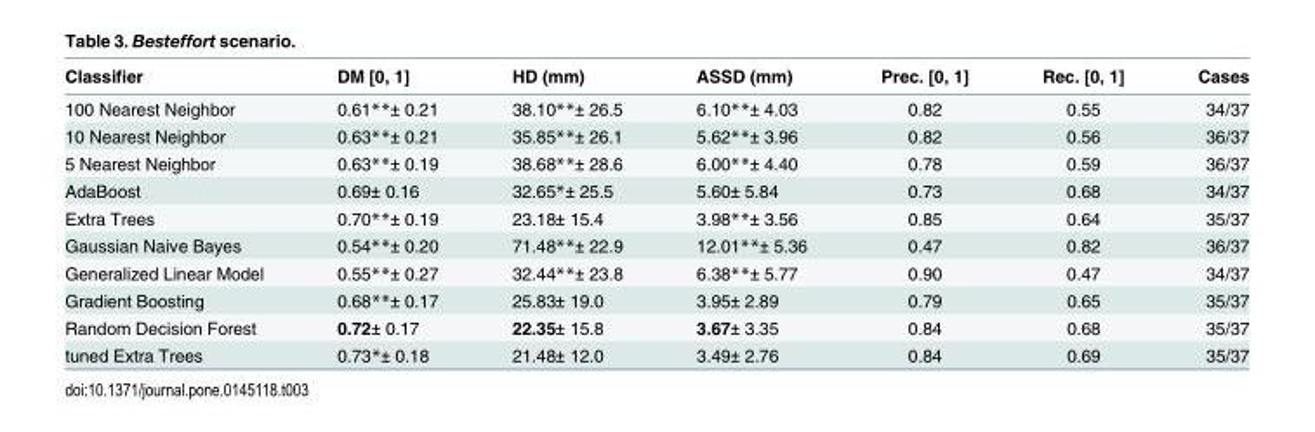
<table><thead><tr><td>Classifier</td><td>DM [0, 1]</td><td>HD (mm)</td><td>ASSD (mm)</td><td>Prec. [0, 1]</td><td>Rec. [0, 1]</td><td>Cases</td></tr></thead><tbody><tr><td>100 Nearest Neighbor</td><td>0.61**± 0.21</td><td>38.10**± 26.5</td><td>6.10**± 4.03</td><td>0.82</td><td>0.55</td><td>34/37</td></tr><tr><td>10 Nearest Neighbor</td><td>0.63**± 0.21</td><td>35.85**± 26.1</td><td>5.62**± 3.96</td><td>0.82</td><td>0.56</td><td>36/37</td></tr><tr><td>5 Nearest Neighbor</td><td>0.63**± 0.19</td><td>38.68**± 28.6</td><td>6.00**± 4.40</td><td>0.78</td><td>0.59</td><td>36/37</td></tr><tr><td>AdaBoost</td><td>0.69± 0.16</td><td>32.65*± 25.5</td><td>5.60± 5.84</td><td>0.73</td><td>0.68</td><td>34/37</td></tr><tr><td>Extra Trees</td><td>0.70**± 0.19</td><td>23.18± 15.4</td><td>3.98**± 3.56</td><td>0.85</td><td>0.64</td><td>35/37</td></tr><tr><td>Gaussian Naive Bayes</td><td>0.54**± 0.20</td><td>71.48**± 22.9</td><td>12.01**± 5.36</td><td>0.47</td><td>0.82</td><td>36/37</td></tr><tr><td>Generalized Linear Model</td><td>0.55**± 0.27</td><td>32.44**± 23.8</td><td>6.38**± 5.77</td><td>0.90</td><td>0.47</td><td>34/37</td></tr><tr><td>Gradient Boosting</td><td>0.68**± 0.17</td><td>25.83± 19.0</td><td>3.95± 2.89</td><td>0.79</td><td>0.65</td><td>35/37</td></tr><tr><td>Random Decision Forest</td><td>0.72± 0.17</td><td>22.35± 15.8</td><td>3.67± 3.35</td><td>0.84</td><td>0.68</td><td>35/37</td></tr><tr><td>tuned Extra Trees</td><td>0.73*± 0.18</td><td>21.48± 12.0</td><td>3.49± 2.76</td><td>0.84</td><td>0.69</td><td>35/37</td></tr></tbody></table>